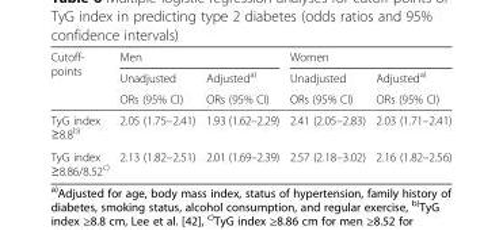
<table><thead><tr><td rowspan="3">Cutoff- points</td><td colspan="2">Men</td><td colspan="2">Women</td></tr><tr><td rowspan="2">Unadjusted ORs (95% CI)</td><td rowspan="2">Adjusted<sup>a)</sup> ORs (95% CI)</td><td rowspan="2">Unadjusted ORs (95% CI)</td><td rowspan="2">Adjusted<sup>a)</sup> ORs (95% CI)</td></tr><tr></tr></thead><tbody><tr><td>TyG index ≥8.8<sup>b)</sup></td><td>2.05 (1.75–2.41)</td><td>1.93 (1.62–2.29)</td><td>2.41 (2.05–2.83)</td><td>2.03 (1.71–2.41)</td></tr><tr><td>TyG index ≥8.86/8.52<sup>c)</sup></td><td>2.13 (1.82–2.51)</td><td>2.01 (1.69–2.39)</td><td>2.57 (2.18–3.02)</td><td>2.16 (1.82–2.56)</td></tr></tbody></table>